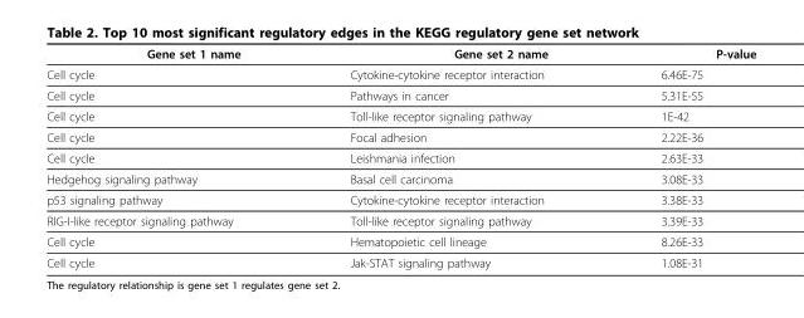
<table><thead><tr><td>Gene set 1 name</td><td>Gene set 2 name</td><td>P-value</td></tr></thead><tbody><tr><td>Cell cycle</td><td>Cytokine-cytokine receptor interaction</td><td>6.46E-75</td></tr><tr><td>Cell cycle</td><td>Pathways in cancer</td><td>5.31E-55</td></tr><tr><td>Cell cycle</td><td>Toll-like receptor signaling pathway</td><td>1E-42</td></tr><tr><td>Cell cycle</td><td>Focal adhesion</td><td>2.22E-36</td></tr><tr><td>Cell cycle</td><td>Leishmania infection</td><td>2.63E-33</td></tr><tr><td>Hedgehog signaling pathway</td><td>Basal cell carcinoma</td><td>3.08E-33</td></tr><tr><td>p53 signaling pathway</td><td>Cytokine-cytokine receptor interaction</td><td>3.38E-33</td></tr><tr><td>RIG-I-like receptor signaling pathway</td><td>Toll-like receptor signaling pathway</td><td>3.39E-33</td></tr><tr><td>Cell cycle</td><td>Hematopoietic cell lineage</td><td>8.26E-33</td></tr><tr><td>Cell cycle</td><td>Jak-STAT signaling pathway</td><td>1.08E-31</td></tr></tbody></table>